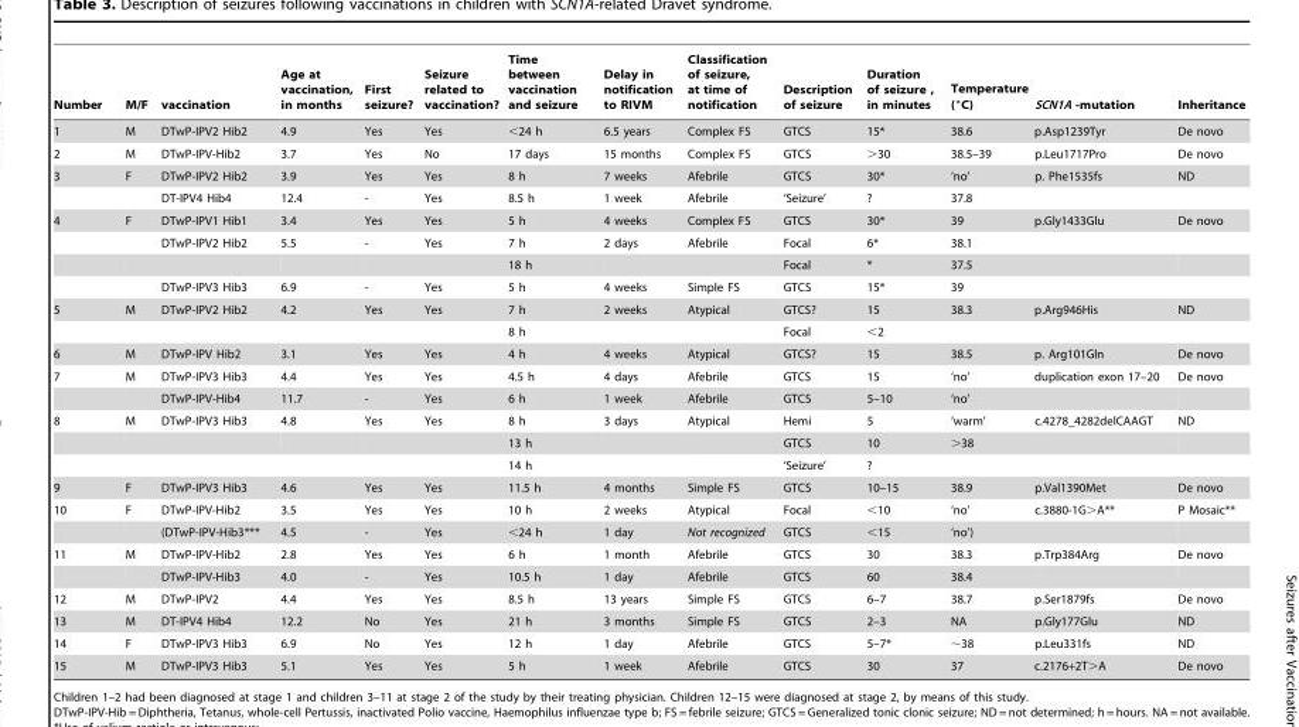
<table><thead><tr><td>Number</td><td>M/F</td><td>vaccination</td><td>Age at vaccination, in months</td><td>First seizure?</td><td>Seizure related to vaccination?</td><td>Time between vaccination and seizure</td><td>Delay in notification to RIVM</td><td>Classification of seizure, at time of notification</td><td>Description of seizure</td><td>Duration of seizure , in minutes</td><td>Temperature (°C)</td><td>SCN1A -mutation</td><td>Inheritance</td></tr></thead><tbody><tr><td>1</td><td>M</td><td>DTwP-IPV2 Hib2</td><td>4.9</td><td>Yes</td><td>Yes</td><td>&lt;24 h</td><td>6.5 years</td><td>Complex FS</td><td>GTCS</td><td>15*</td><td>38.6</td><td>p.Asp1239Tyr</td><td>De novo</td></tr><tr><td>2</td><td>M</td><td>DTwP-IPV-Hib2</td><td>3.7</td><td>Yes</td><td>No</td><td>17 days</td><td>15 months</td><td>Complex FS</td><td>GTCS</td><td>&gt;30</td><td>38.5–39</td><td>p.Leu1717Pro</td><td>De novo</td></tr><tr><td rowspan="2">3</td><td>F</td><td>DTwP-IPV2 Hib2</td><td>3.9</td><td>Yes</td><td>Yes</td><td>8 h</td><td>7 weeks</td><td>Afebrile</td><td>GTCS</td><td>30*</td><td>‘no’</td><td>p. Phe1535fs</td><td>ND</td></tr><tr><td></td><td>DT-IPV4 Hib4</td><td>12.4</td><td>-</td><td>Yes</td><td>8.5 h</td><td>1 week</td><td>Afebrile</td><td>‘Seizure’</td><td>?</td><td>37.8</td><td></td><td></td></tr><tr><td rowspan="4">4</td><td>F</td><td>DTwP-IPV1 Hib1</td><td>3.4</td><td>Yes</td><td>Yes</td><td>5 h</td><td>4 weeks</td><td>Complex FS</td><td>GTCS</td><td>30*</td><td>39</td><td>p.Gly1433Glu</td><td>De novo</td></tr><tr><td></td><td>DTwP-IPV2 Hib2</td><td>5.5</td><td>-</td><td>Yes</td><td>7 h</td><td>2 days</td><td>Afebrile</td><td>Focal</td><td>6*</td><td>38.1</td><td></td><td></td></tr><tr><td></td><td></td><td></td><td></td><td></td><td>18 h</td><td></td><td></td><td>Focal</td><td>*</td><td>37.5</td><td></td><td></td></tr><tr><td></td><td>DTwP-IPV3 Hib3</td><td>6.9</td><td>-</td><td>Yes</td><td>5 h</td><td>4 weeks</td><td>Simple FS</td><td>GTCS</td><td>15*</td><td>39</td><td></td><td></td></tr><tr><td rowspan="2">5</td><td>M</td><td>DTwP-IPV2 Hib2</td><td>4.2</td><td>Yes</td><td>Yes</td><td>7 h</td><td>2 weeks</td><td>Atypical</td><td>GTCS?</td><td>15</td><td>38.3</td><td>p.Arg946His</td><td>ND</td></tr><tr><td></td><td></td><td></td><td></td><td></td><td>8 h</td><td></td><td></td><td>Focal</td><td>&lt;2</td><td></td><td></td><td></td></tr><tr><td>6</td><td>M</td><td>DTwP-IPV Hib2</td><td>3.1</td><td>Yes</td><td>Yes</td><td>4 h</td><td>4 weeks</td><td>Atypical</td><td>GTCS?</td><td>15</td><td>38.5</td><td>p. Arg101Gln</td><td>De novo</td></tr><tr><td rowspan="2">7</td><td>M</td><td>DTwP-IPV3 Hib3</td><td>4.4</td><td>Yes</td><td>Yes</td><td>4.5 h</td><td>4 days</td><td>Afebrile</td><td>GTCS</td><td>15</td><td>‘no’</td><td>duplication exon 17–20</td><td>De novo</td></tr><tr><td></td><td>DTwP-IPV-Hib4</td><td>11.7</td><td>-</td><td>Yes</td><td>6 h</td><td>1 week</td><td>Afebrile</td><td>GTCS</td><td>5–10</td><td>‘no’</td><td></td><td></td></tr><tr><td rowspan="3">8</td><td>M</td><td>DTwP-IPV3 Hib3</td><td>4.8</td><td>Yes</td><td>Yes</td><td>8 h</td><td>3 days</td><td>Atypical</td><td>Hemi</td><td>5</td><td>‘warm’</td><td>c.4278_4282delCAAGT</td><td>ND</td></tr><tr><td></td><td></td><td></td><td></td><td></td><td>13 h</td><td></td><td></td><td>GTCS</td><td>10</td><td>&gt;38</td><td></td><td></td></tr><tr><td></td><td></td><td></td><td></td><td></td><td>14 h</td><td></td><td></td><td>‘Seizure’</td><td>?</td><td></td><td></td><td></td></tr><tr><td>9</td><td>F</td><td>DTwP-IPV3 Hib3</td><td>4.6</td><td>Yes</td><td>Yes</td><td>11.5 h</td><td>4 months</td><td>Simple FS</td><td>GTCS</td><td>10–15</td><td>38.9</td><td>p.Val1390Met</td><td>De novo</td></tr><tr><td rowspan="2">10</td><td>F</td><td>DTwP-IPV-Hib2</td><td>3.5</td><td>Yes</td><td>Yes</td><td>10 h</td><td>2 weeks</td><td>Atypical</td><td>Focal</td><td>&lt;10</td><td>‘no’</td><td>c.3880-1G&gt;A**</td><td>P Mosaic**</td></tr><tr><td></td><td>(DTwP-IPV-Hib3***</td><td>4.5</td><td>-</td><td>Yes</td><td>&lt;24 h</td><td>1 day</td><td>Not recognized</td><td>GTCS</td><td>&lt;15</td><td>‘no’)</td><td></td><td></td></tr><tr><td rowspan="2">11</td><td>M</td><td>DTwP-IPV-Hib2</td><td>2.8</td><td>Yes</td><td>Yes</td><td>6 h</td><td>1 month</td><td>Afebrile</td><td>GTCS</td><td>30</td><td>38.3</td><td>p.Trp384Arg</td><td>De novo</td></tr><tr><td></td><td>DTwP-IPV-Hib3</td><td>4.0</td><td>-</td><td>Yes</td><td>10.5 h</td><td>1 day</td><td>Afebrile</td><td>GTCS</td><td>60</td><td>38.4</td><td></td><td></td></tr><tr><td>12</td><td>M</td><td>DTwP-IPV2</td><td>4.4</td><td>Yes</td><td>Yes</td><td>8.5 h</td><td>13 years</td><td>Simple FS</td><td>GTCS</td><td>6–7</td><td>38.7</td><td>p.Ser1879fs</td><td>De novo</td></tr><tr><td>13</td><td>M</td><td>DT-IPV4 Hib4</td><td>12.2</td><td>No</td><td>Yes</td><td>21 h</td><td>3 months</td><td>Simple FS</td><td>GTCS</td><td>2–3</td><td>NA</td><td>p.Gly177Glu</td><td>ND</td></tr><tr><td>14</td><td>F</td><td>DTwP-IPV3 Hib3</td><td>6.9</td><td>No</td><td>Yes</td><td>12 h</td><td>1 day</td><td>Afebrile</td><td>GTCS</td><td>5–7*</td><td>∼38</td><td>p.Leu331fs</td><td>ND</td></tr><tr><td>15</td><td>M</td><td>DTwP-IPV3 Hib3</td><td>5.1</td><td>Yes</td><td>Yes</td><td>5 h</td><td>1 week</td><td>Afebrile</td><td>GTCS</td><td>30</td><td>37</td><td>c.2176+2T&gt;A</td><td>De novo</td></tr></tbody></table>